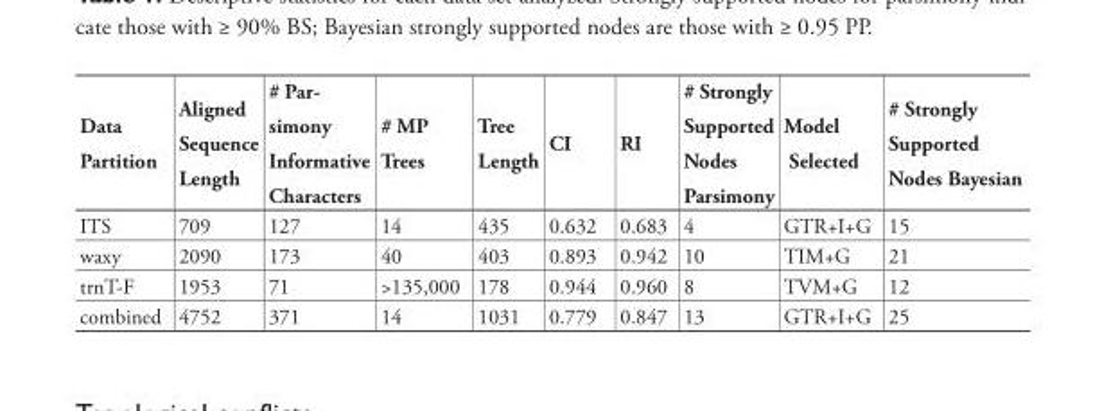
<table><tbody><tr><td>Data Partition</td><td>Aligned Sequence Length</td><td># Par- simony Informative Characters</td><td># MP Trees</td><td>Tree Length</td><td>CI</td><td>RI</td><td># Strongly Supported Nodes Parsimony</td><td>Model Selected</td><td># Strongly Supported Nodes Bayesian</td></tr><tr><td>ITS</td><td>709</td><td>127</td><td>14</td><td>435</td><td>0.632</td><td>0.683</td><td>4</td><td>GTR+I+G</td><td>15</td></tr><tr><td>waxy</td><td>2090</td><td>173</td><td>40</td><td>403</td><td>0.893</td><td>0.942</td><td>10</td><td>TIM+G</td><td>21</td></tr><tr><td>trnT-F</td><td>1953</td><td>71</td><td>&gt;135,000</td><td>178</td><td>0.944</td><td>0.960</td><td>8</td><td>TVM+G</td><td>12</td></tr><tr><td>combined</td><td>4752</td><td>371</td><td>14</td><td>1031</td><td>0.779</td><td>0.847</td><td>13</td><td>GTR+I+G</td><td>25</td></tr></tbody></table>